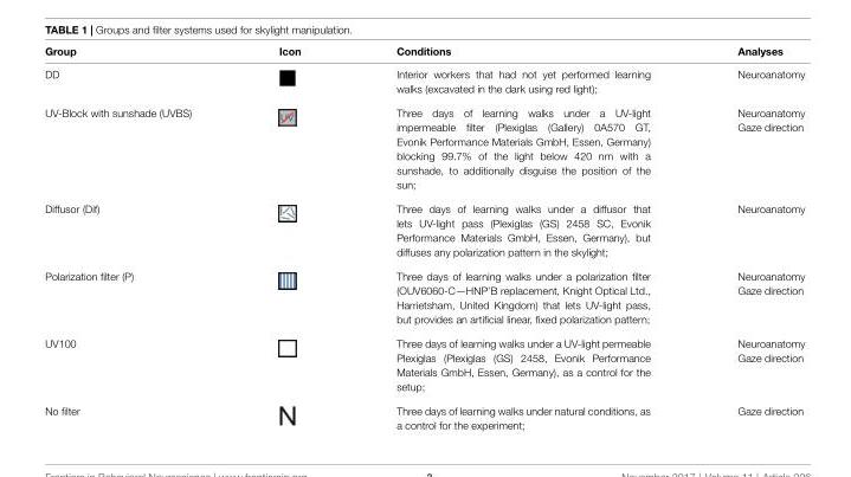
<table><thead><tr><td>Group</td><td>Icon</td><td>Conditions</td><td>Analyses</td></tr></thead><tbody><tr><td>DD</td><td></td><td>Interior workers that had not yet performed learning walks (excavated in the dark using red light);</td><td>Neuroanatomy</td></tr><tr><td>UV-Block with sunshade (UVBS)</td><td></td><td>Three days of learning walks under a UV-light impermeable filter (Plexiglas (Gallery) 0A570 GT, Evonik Performance Materials GmbH, Essen, Germany) blocking 99.7% of the light below 420 nm with a sunshade, to additionally disguise the position of the sun;</td><td>Neuroanatomy Gaze direction</td></tr><tr><td>Diffusor (Dif)</td><td></td><td>Three days of learning walks under a diffusor that lets UV-light pass (Plexiglas (GS) 2458 SC, Evonik Performance Materials GmbH, Essen, Germany), but diffuses any polarization pattern in the skylight;</td><td>Neuroanatomy</td></tr><tr><td>Polarization filter (P)</td><td></td><td>Three days of learning walks under a polarization filter (OUV6060-C—HNP’B replacement, Knight Optical Ltd., Harrietsham, United Kingdom) that lets UV-light pass, but provides an artificial linear, fixed polarization pattern;</td><td>Neuroanatomy Gaze direction</td></tr><tr><td>UV100</td><td></td><td>Three days of learning walks under a UV-light permeable Plexiglas (Plexiglas (GS) 2458, Evonik Performance Materials GmbH, Essen, Germany), as a control for the setup;</td><td>Neuroanatomy Gaze direction</td></tr><tr><td>No filter</td><td></td><td>Three days of learning walks under natural conditions, as a control for the experiment;</td><td>Gaze direction</td></tr></tbody></table>